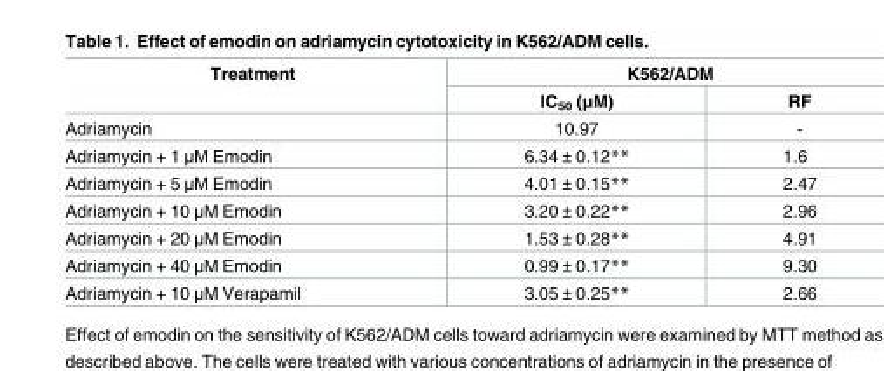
<table><thead><tr><td rowspan="2">Treatment</td><td colspan="2">K562/ADM</td></tr><tr><td>IC<sub>50</sub> (μM)</td><td>RF</td></tr></thead><tbody><tr><td>Adriamycin</td><td>10.97</td><td>-</td></tr><tr><td>Adriamycin + 1 μM Emodin</td><td>6.34 ± 0.12**</td><td>1.6</td></tr><tr><td>Adriamycin + 5 μM Emodin</td><td>4.01 ± 0.15**</td><td>2.47</td></tr><tr><td>Adriamycin + 10 μM Emodin</td><td>3.20 ± 0.22**</td><td>2.96</td></tr><tr><td>Adriamycin + 20 μM Emodin</td><td>1.53 ± 0.28**</td><td>4.91</td></tr><tr><td>Adriamycin + 40 μM Emodin</td><td>0.99 ± 0.17**</td><td>9.30</td></tr><tr><td>Adriamycin + 10 μM Verapamil</td><td>3.05 ± 0.25**</td><td>2.66</td></tr></tbody></table>